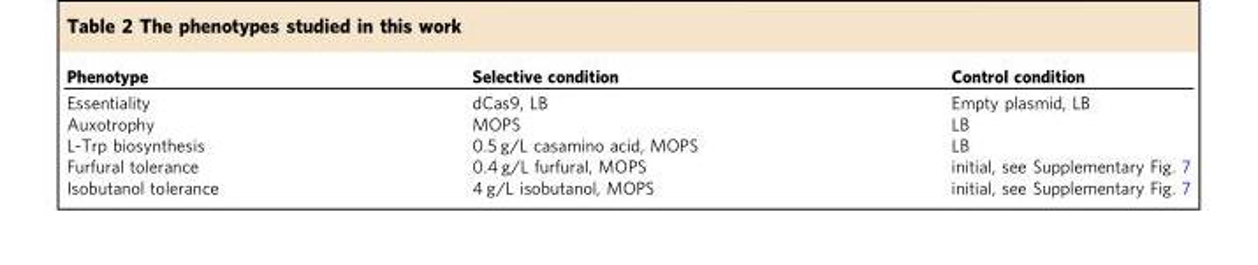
<table><thead><tr><td>Phenotype</td><td>Selective condition</td><td>Control condition</td></tr></thead><tbody><tr><td>Essentiality</td><td>dCas9, LB</td><td>Empty plasmid, LB</td></tr><tr><td>Auxotrophy</td><td>MOPS</td><td>LB</td></tr><tr><td>L-Trp biosynthesis</td><td>0.5 g/L casamino acid, MOPS</td><td>LB</td></tr><tr><td>Furfural tolerance</td><td>0.4 g/L furfural, MOPS</td><td>initial, see Supplementary Fig. 7</td></tr><tr><td>Isobutanol tolerance</td><td>4 g/L isobutanol, MOPS</td><td>initial, see Supplementary Fig. 7</td></tr></tbody></table>